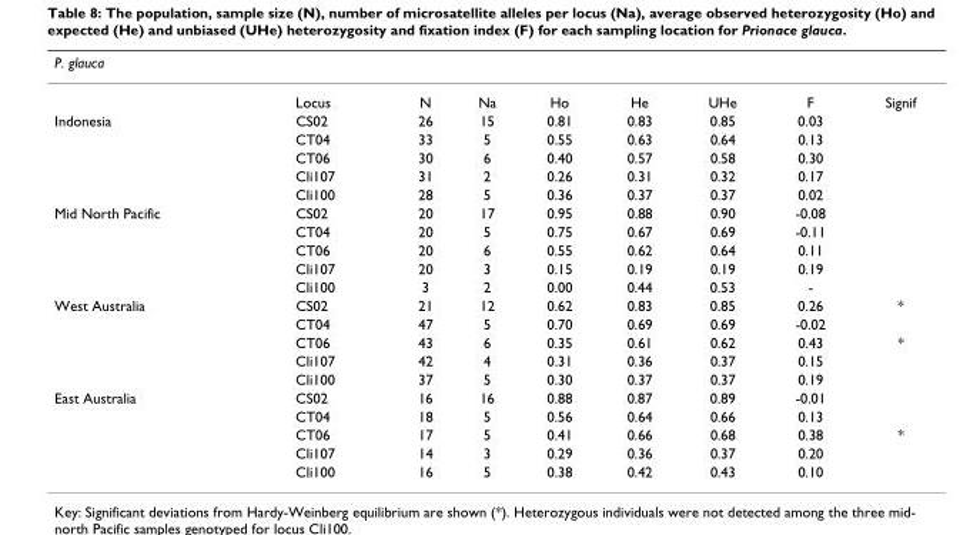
<table><thead><tr><td colspan="9">P. glauca</td></tr><tr><td></td><td>Locus</td><td>N</td><td>Na</td><td>Ho</td><td>He</td><td>UHe</td><td>F</td><td>Signif</td></tr></thead><tbody><tr><td rowspan="5">Indonesia</td><td>CS02</td><td>26</td><td>15</td><td>0.81</td><td>0.83</td><td>0.85</td><td>0.03</td><td></td></tr><tr><td>CT04</td><td>33</td><td>5</td><td>0.55</td><td>0.63</td><td>0.64</td><td>0.13</td><td></td></tr><tr><td>CT06</td><td>30</td><td>6</td><td>0.40</td><td>0.57</td><td>0.58</td><td>0.30</td><td></td></tr><tr><td>Cli107</td><td>31</td><td>2</td><td>0.26</td><td>0.31</td><td>0.32</td><td>0.17</td><td></td></tr><tr><td>Cli100</td><td>28</td><td>5</td><td>0.36</td><td>0.37</td><td>0.37</td><td>0.02</td><td></td></tr><tr><td rowspan="5">Mid North Pacific</td><td>CS02</td><td>20</td><td>17</td><td>0.95</td><td>0.88</td><td>0.90</td><td>-0.08</td><td></td></tr><tr><td>CT04</td><td>20</td><td>5</td><td>0.75</td><td>0.67</td><td>0.69</td><td>-0.11</td><td></td></tr><tr><td>CT06</td><td>20</td><td>6</td><td>0.55</td><td>0.62</td><td>0.64</td><td>0.11</td><td></td></tr><tr><td>Cli107</td><td>20</td><td>3</td><td>0.15</td><td>0.19</td><td>0.19</td><td>0.19</td><td></td></tr><tr><td>Cli100</td><td>3</td><td>2</td><td>0.00</td><td>0.44</td><td>0.53</td><td>-</td><td></td></tr><tr><td rowspan="5">West Australia</td><td>CS02</td><td>21</td><td>12</td><td>0.62</td><td>0.83</td><td>0.85</td><td>0.26</td><td>*</td></tr><tr><td>CT04</td><td>47</td><td>5</td><td>0.70</td><td>0.69</td><td>0.69</td><td>-0.02</td><td></td></tr><tr><td>CT06</td><td>43</td><td>6</td><td>0.35</td><td>0.61</td><td>0.62</td><td>0.43</td><td>*</td></tr><tr><td>Cli107</td><td>42</td><td>4</td><td>0.31</td><td>0.36</td><td>0.37</td><td>0.15</td><td></td></tr><tr><td>Cli100</td><td>37</td><td>5</td><td>0.30</td><td>0.37</td><td>0.37</td><td>0.19</td><td></td></tr><tr><td rowspan="5">East Australia</td><td>CS02</td><td>16</td><td>16</td><td>0.88</td><td>0.87</td><td>0.89</td><td>-0.01</td><td></td></tr><tr><td>CT04</td><td>18</td><td>5</td><td>0.56</td><td>0.64</td><td>0.66</td><td>0.13</td><td></td></tr><tr><td>CT06</td><td>17</td><td>5</td><td>0.41</td><td>0.66</td><td>0.68</td><td>0.38</td><td>*</td></tr><tr><td>Cli107</td><td>14</td><td>3</td><td>0.29</td><td>0.36</td><td>0.37</td><td>0.20</td><td></td></tr><tr><td>Cli100</td><td>16</td><td>5</td><td>0.38</td><td>0.42</td><td>0.43</td><td>0.10</td><td></td></tr></tbody></table>